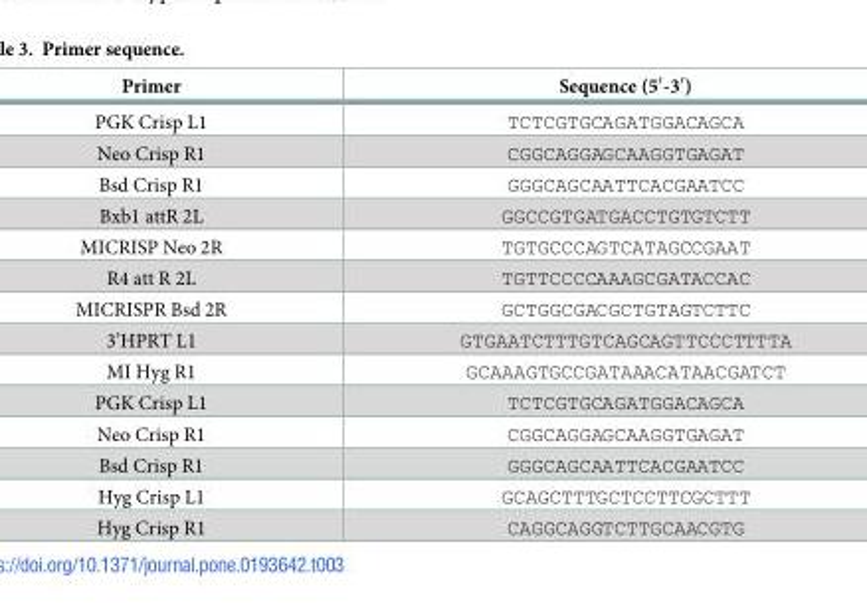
<table><thead><tr><td>Primer</td><td>Sequence (5′-3′)</td></tr></thead><tbody><tr><td>PGK Crisp L1</td><td>TCTCGTGCAGATGGACAGCA</td></tr><tr><td>Neo Crisp R1</td><td>CGGCAGGAGCAAGGTGAGAT</td></tr><tr><td>Bsd Crisp R1</td><td>GGGCAGCAATTCACGAATCC</td></tr><tr><td>Bxb1 attR 2L</td><td>GGCCGTGATGACCTGTGTCTT</td></tr><tr><td>MICRISP Neo 2R</td><td>TGTGCCCAGTCATAGCCGAAT</td></tr><tr><td>R4 att R 2L</td><td>TGTTCCCCAAAGCGATACCAC</td></tr><tr><td>MICRISPR Bsd 2R</td><td>GCTGGCGACGCTGTAGTCTTC</td></tr><tr><td>3’HPRT L1</td><td>GTGAATCTTTGTCAGCAGTTCCCTTTTA</td></tr><tr><td>MI Hyg R1</td><td>GCAAAGTGCCGATAAACATAACGATCT</td></tr><tr><td>PGK Crisp L1</td><td>TCTCGTGCAGATGGACAGCA</td></tr><tr><td>Neo Crisp R1</td><td>CGGCAGGAGCAAGGTGAGAT</td></tr><tr><td>Bsd Crisp R1</td><td>GGGCAGCAATTCACGAATCC</td></tr><tr><td>Hyg Crisp L1</td><td>GCAGCTTTGCTCCTTCGCTTT</td></tr><tr><td>Hyg Crisp R1</td><td>CAGGCAGGTCTTGCAACGTG</td></tr></tbody></table>